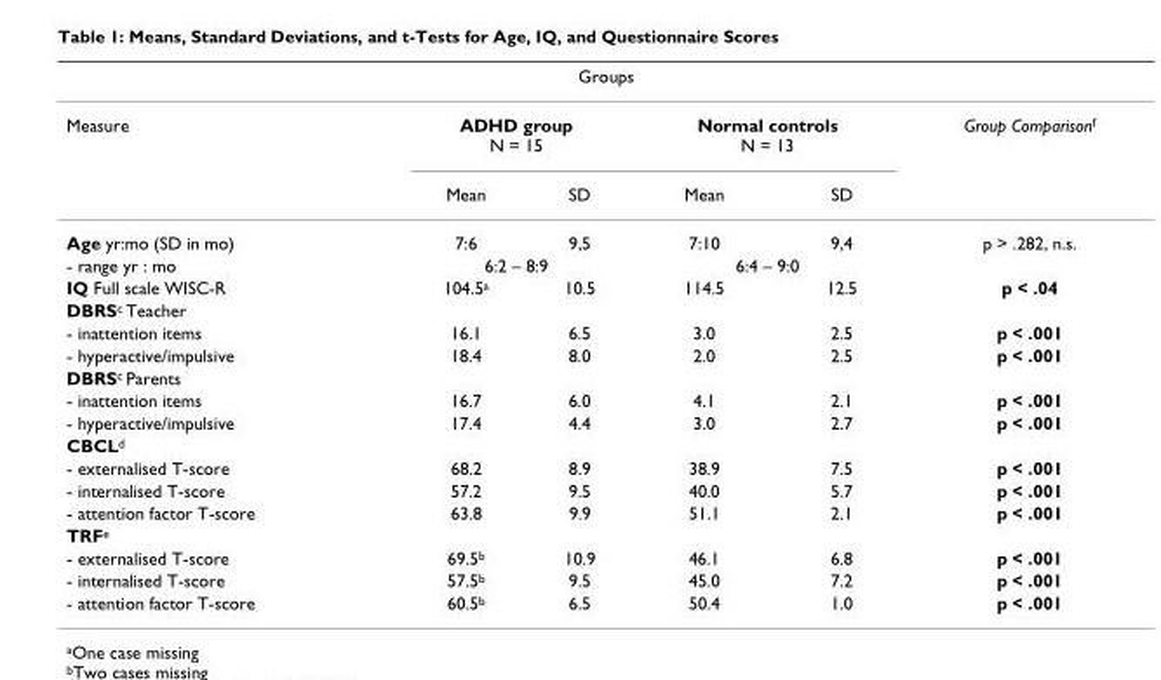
<table><thead><tr><td colspan="6">Groups</td></tr><tr><td rowspan="2">Measure</td><td colspan="2">ADHD group N = 15</td><td colspan="2">Normal controls N = 13</td><td rowspan="2">Group Comparison<sup>f</sup></td></tr><tr><td>Mean</td><td>SD</td><td>Mean</td><td>SD</td></tr></thead><tbody><tr><td>Age yr:mo (SD in mo)</td><td>7:6</td><td>9,5</td><td>7:10</td><td>9,4</td><td>p &gt; .282, n.s.</td></tr><tr><td>- range yr : mo</td><td colspan="2">6:2 – 8:9</td><td colspan="2">6:4 – 9:0</td><td></td></tr><tr><td>IQ Full scale WISC-R</td><td>104.5<sup>a</sup></td><td>10.5</td><td>114.5</td><td>12.5</td><td>p &lt; .04</td></tr><tr><td colspan="6">DBRS<sup>c</sup> Teacher</td></tr><tr><td>- inattention items</td><td>16.1</td><td>6.5</td><td>3.0</td><td>2.5</td><td>p &lt; .001</td></tr><tr><td>- hyperactive/impulsive</td><td>18.4</td><td>8.0</td><td>2.0</td><td>2.5</td><td>p &lt; .001</td></tr><tr><td colspan="6">DBRS<sup>c</sup> Parents</td></tr><tr><td>- inattention items</td><td>16.7</td><td>6.0</td><td>4.1</td><td>2.1</td><td>p &lt; .001</td></tr><tr><td>- hyperactive/impulsive</td><td>17.4</td><td>4.4</td><td>3.0</td><td>2.7</td><td>p &lt; .001</td></tr><tr><td colspan="6">CBCL<sup>d</sup></td></tr><tr><td>- externalised T-score</td><td>68.2</td><td>8.9</td><td>38.9</td><td>7.5</td><td>p &lt; .001</td></tr><tr><td>- internalised T-score</td><td>57.2</td><td>9.5</td><td>40.0</td><td>5.7</td><td>p &lt; .001</td></tr><tr><td>- attention factor T-score</td><td>63.8</td><td>9.9</td><td>51.1</td><td>2.1</td><td>p &lt; .001</td></tr><tr><td colspan="6">TRF<sup>e</sup></td></tr><tr><td>- externalised T-score</td><td>69.5<sup>b</sup></td><td>10.9</td><td>46.1</td><td>6.8</td><td>p &lt; .001</td></tr><tr><td>- internalised T-score</td><td>57.5<sup>b</sup></td><td>9.5</td><td>45.0</td><td>7.2</td><td>p &lt; .001</td></tr><tr><td>- attention factor T-score</td><td>60.5<sup>b</sup></td><td>6.5</td><td>50.4</td><td>1.0</td><td>p &lt; .001</td></tr></tbody></table>